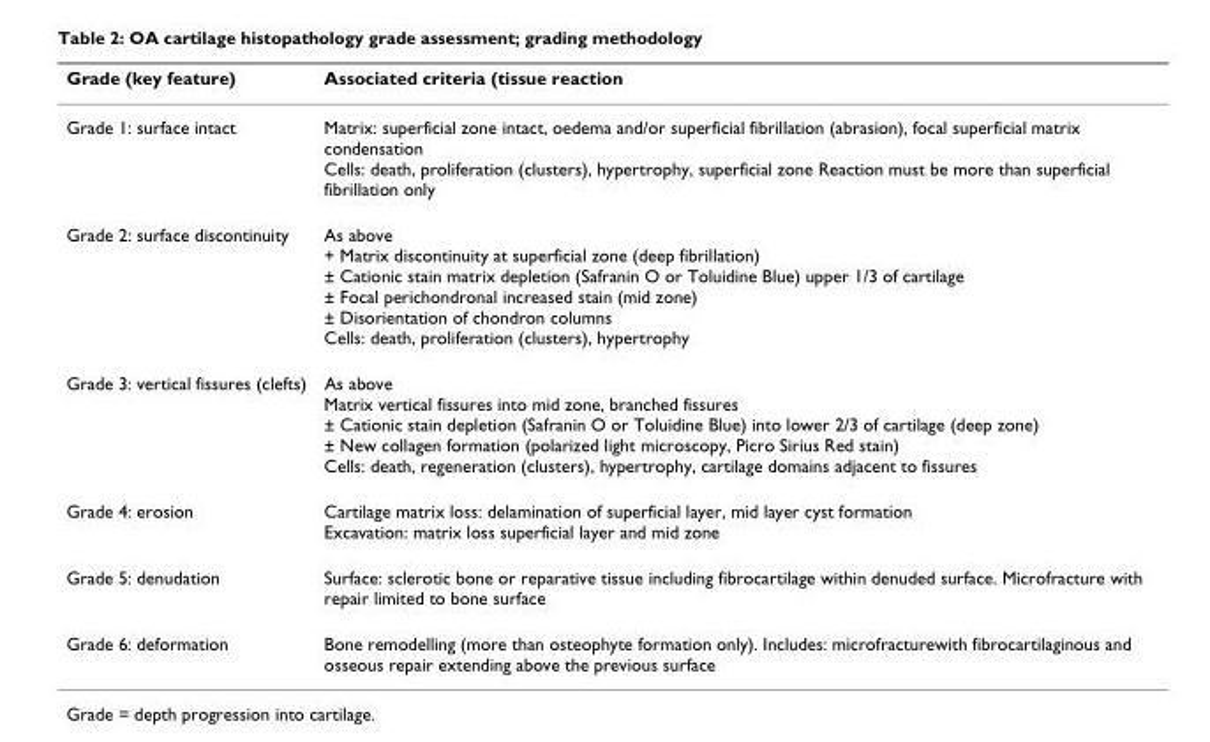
<table><thead><tr><td>Grade (key feature)</td><td>Associated criteria (tissue reaction</td></tr></thead><tbody><tr><td>Grade 1: surface intact</td><td>Matrix: superficial zone intact, oedema and/or superficial fibrillation (abrasion), focal superficial matrix condensation Cells: death, proliferation (clusters), hypertrophy, superficial zone Reaction must be more than superficial fibrillation only</td></tr><tr><td>Grade 2: surface discontinuity</td><td>As above + Matrix discontinuity at superficial zone (deep fibrillation) ± Cationic stain matrix depletion (Safranin O or Toluidine Blue) upper 1/3 of cartilage ± Focal perichondronal increased stain (mid zone) ± Disorientation of chondron columns Cells: death, proliferation (clusters), hypertrophy</td></tr><tr><td>Grade 3: vertical fissures (clefts)</td><td>As above Matrix vertical fissures into mid zone, branched fissures ± Cationic stain depletion (Safranin O or Toluidine Blue) into lower 2/3 of cartilage (deep zone) ± New collagen formation (polarized light microscopy, Picro Sirius Red stain) Cells: death, regeneration (clusters), hypertrophy, cartilage domains adjacent to fissures</td></tr><tr><td>Grade 4: erosion</td><td>Cartilage matrix loss: delamination of superficial layer, mid layer cyst formation Excavation: matrix loss superficial layer and mid zone</td></tr><tr><td>Grade 5: denudation</td><td>Surface: sclerotic bone or reparative tissue including fibrocartilage within denuded surface. Microfracture with repair limited to bone surface</td></tr><tr><td>Grade 6: deformation</td><td>Bone remodelling (more than osteophyte formation only). Includes: microfracturewith fibrocartilaginous and osseous repair extending above the previous surface</td></tr></tbody></table>